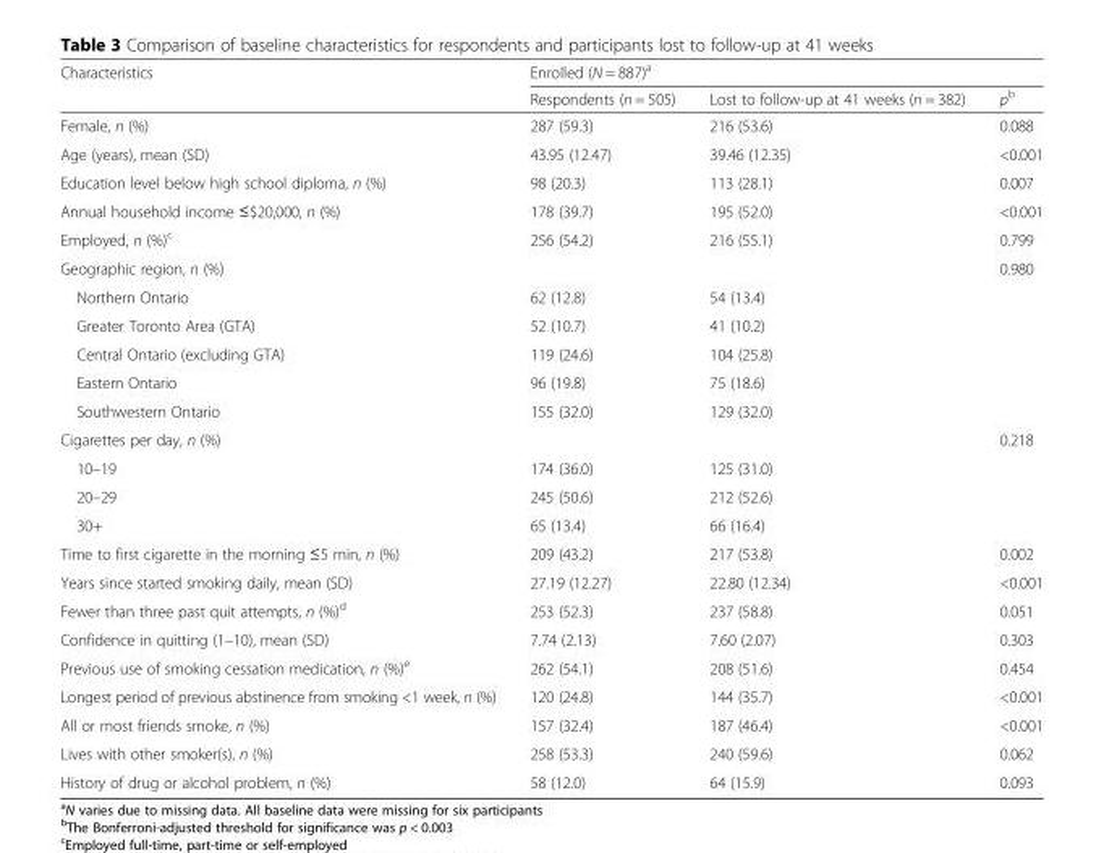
<table><thead><tr><td rowspan="2">Characteristics</td><td colspan="3">Enrolled (N = 887)<sup>a</sup></td></tr><tr><td>Respondents (n = 505)</td><td>Lost to follow-up at 41 weeks (n = 382)</td><td>p<sup>b</sup></td></tr></thead><tbody><tr><td>Female, n (%)</td><td>287 (59.3)</td><td>216 (53.6)</td><td>0.088</td></tr><tr><td>Age (years), mean (SD)</td><td>43.95 (12.47)</td><td>39.46 (12.35)</td><td>&lt;0.001</td></tr><tr><td>Education level below high school diploma, n (%)</td><td>98 (20.3)</td><td>113 (28.1)</td><td>0.007</td></tr><tr><td>Annual household income ≤$20,000, n (%)</td><td>178 (39.7)</td><td>195 (52.0)</td><td>&lt;0.001</td></tr><tr><td>Employed, n (%)<sup>c</sup></td><td>256 (54.2)</td><td>216 (55.1)</td><td>0.799</td></tr><tr><td>Geographic region, n (%)</td><td></td><td></td><td>0.980</td></tr><tr><td>Northern Ontario</td><td>62 (12.8)</td><td>54 (13.4)</td><td></td></tr><tr><td>Greater Toronto Area (GTA)</td><td>52 (10.7)</td><td>41 (10.2)</td><td></td></tr><tr><td>Central Ontario (excluding GTA)</td><td>119 (24.6)</td><td>104 (25.8)</td><td></td></tr><tr><td>Eastern Ontario</td><td>96 (19.8)</td><td>75 (18.6)</td><td></td></tr><tr><td>Southwestern Ontario</td><td>155 (32.0)</td><td>129 (32.0)</td><td></td></tr><tr><td>Cigarettes per day, n (%)</td><td></td><td></td><td>0.218</td></tr><tr><td>10–19</td><td>174 (36.0)</td><td>125 (31.0)</td><td></td></tr><tr><td>20–29</td><td>245 (50.6)</td><td>212 (52.6)</td><td></td></tr><tr><td>30+</td><td>65 (13.4)</td><td>66 (16.4)</td><td></td></tr><tr><td>Time to first cigarette in the morning ≤5 min, n (%)</td><td>209 (43.2)</td><td>217 (53.8)</td><td>0.002</td></tr><tr><td>Years since started smoking daily, mean (SD)</td><td>27.19 (12.27)</td><td>22.80 (12.34)</td><td>&lt;0.001</td></tr><tr><td>Fewer than three past quit attempts, n (%)<sup>d</sup></td><td>253 (52.3)</td><td>237 (58.8)</td><td>0.051</td></tr><tr><td>Confidence in quitting (1–10), mean (SD)</td><td>7.74 (2.13)</td><td>7.60 (2.07)</td><td>0.303</td></tr><tr><td>Previous use of smoking cessation medication, n (%)<sup>e</sup></td><td>262 (54.1)</td><td>208 (51.6)</td><td>0.454</td></tr><tr><td>Longest period of previous abstinence from smoking &lt;1 week, n (%)</td><td>120 (24.8)</td><td>144 (35.7)</td><td>&lt;0.001</td></tr><tr><td>All or most friends smoke, n (%)</td><td>157 (32.4)</td><td>187 (46.4)</td><td>&lt;0.001</td></tr><tr><td>Lives with other smoker(s), n (%)</td><td>258 (53.3)</td><td>240 (59.6)</td><td>0.062</td></tr><tr><td>History of drug or alcohol problem, n (%)</td><td>58 (12.0)</td><td>64 (15.9)</td><td>0.093</td></tr></tbody></table>